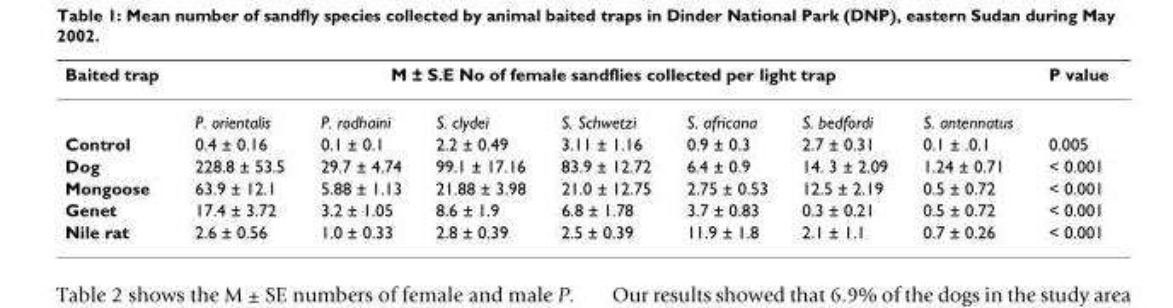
<table><thead><tr><td rowspan="2">Baited trap</td><td colspan="7">M ± S.E No of female sandflies collected per light trap</td><td rowspan="2">P value</td></tr><tr><td>P. orientalis</td><td>P. rodhaini</td><td>S. clydei</td><td>S. Schwetzi</td><td>S. africana</td><td>S. bedfordi</td><td>S. antennatus</td></tr></thead><tbody><tr><td>Control</td><td>0.4 ± 0.16</td><td>0.1 ± 0.1</td><td>2.2 ± 0.49</td><td>3.11 ± 1.16</td><td>0.9 ± 0.3</td><td>2.7 ± 0.31</td><td>0.1 ± .0.1</td><td>0.005</td></tr><tr><td>Dog</td><td>228.8 ± 53.5</td><td>29.7 ± 4.74</td><td>99.1 ± 17.16</td><td>83.9 ± 12.72</td><td>6.4 ± 0.9</td><td>14. 3 ± 2.09</td><td>1.24 ± 0.71</td><td>&lt; 0.001</td></tr><tr><td>Mongoose</td><td>63.9 ± 12.1</td><td>5.88 ± 1.13</td><td>21.88 ± 3.98</td><td>21.0 ± 12.75</td><td>2.75 ± 0.53</td><td>12.5 ± 2.19</td><td>0.5 ± 0.72</td><td>&lt; 0.001</td></tr><tr><td>Genet</td><td>17.4 ± 3.72</td><td>3.2 ± 1.05</td><td>8.6 ± 1.9</td><td>6.8 ± 1.78</td><td>3.7 ± 0.83</td><td>0.3 ± 0.21</td><td>0.5 ± 0.72</td><td>&lt; 0.001</td></tr><tr><td>Nile rat</td><td>2.6 ± 0.56</td><td>1.0 ± 0.33</td><td>2.8 ± 0.39</td><td>2.5 ± 0.39</td><td>11.9 ± 1.8</td><td>2.1 ± 1.1</td><td>0.7 ± 0.26</td><td>&lt; 0.001</td></tr></tbody></table>